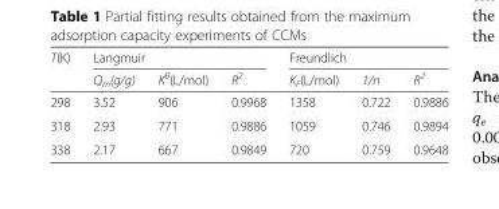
<table><thead><tr><td rowspan="2">T(K)</td><td colspan="3">Langmuir</td><td colspan="3">Freundlich</td></tr><tr><td>Q<sub>m</sub>(g/g)</td><td>K<sup>θ</sup>(L/mol)</td><td>R<sup>2</sup></td><td>K<sub>F</sub>(L/mol)</td><td>1/n</td><td>R<sup>2</sup></td></tr></thead><tbody><tr><td>298</td><td>3.52</td><td>906</td><td>0.9968</td><td>1358</td><td>0.722</td><td>0.9886</td></tr><tr><td>318</td><td>2.93</td><td>771</td><td>0.9886</td><td>1059</td><td>0.746</td><td>0.9894</td></tr><tr><td>338</td><td>2.17</td><td>667</td><td>0.9849</td><td>720</td><td>0.759</td><td>0.9648</td></tr></tbody></table>